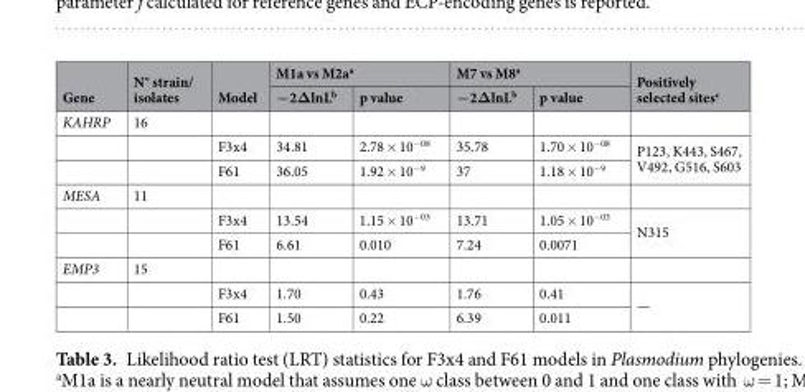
<table><thead><tr><td rowspan="2">Gene</td><td rowspan="2">N° strain/ isolates</td><td rowspan="2">Model</td><td colspan="2">M1a vs M2a<sup>a</sup></td><td colspan="2">M7 vs M8<sup>a</sup></td><td rowspan="2">Positively selected sites<sup>c</sup></td></tr><tr><td>−2ΔlnL<sup>b</sup></td><td>p value</td><td>−2ΔlnL<sup>b</sup></td><td>p value</td></tr></thead><tbody><tr><td rowspan="3">KAHRP</td><td>16</td><td></td><td></td><td></td><td></td><td></td><td></td></tr><tr><td></td><td>F3x4</td><td>34.81</td><td>2.78 × 10<sup>−08</sup></td><td>35.78</td><td>1.70 × 10<sup>−08</sup></td><td rowspan="2">P123, K443, S467, V492, G516, S603</td></tr><tr><td></td><td>F61</td><td>36.05</td><td>1.92 × 10<sup>−9</sup></td><td>37</td><td>1.18 × 10<sup>−9</sup></td></tr><tr><td rowspan="3">MESA</td><td>11</td><td></td><td></td><td></td><td></td><td></td><td></td></tr><tr><td></td><td>F3x4</td><td>13.54</td><td>1.15 × 10<sup>−03</sup></td><td>13.71</td><td>1.05 × 10<sup>−03</sup></td><td rowspan="2">N315</td></tr><tr><td></td><td>F61</td><td>6.61</td><td>0.010</td><td>7.24</td><td>0.0071</td></tr><tr><td rowspan="3">EMP3</td><td>15</td><td></td><td></td><td></td><td></td><td></td><td></td></tr><tr><td></td><td>F3x4</td><td>1.70</td><td>0.43</td><td>1.76</td><td>0.41</td><td rowspan="2">—</td></tr><tr><td></td><td>F61</td><td>1.50</td><td>0.22</td><td>6.39</td><td>0.011</td></tr></tbody></table>